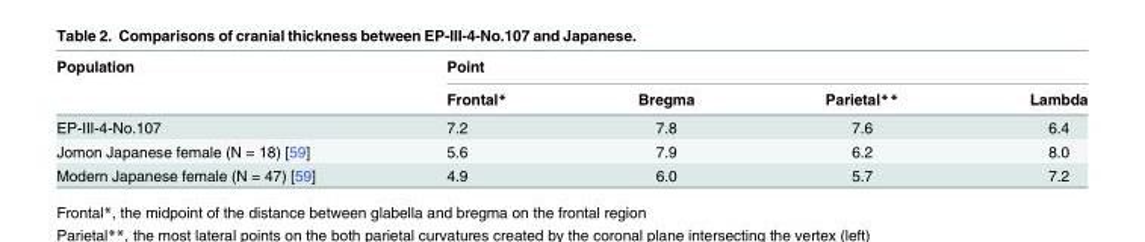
<table><thead><tr><td rowspan="2">Population</td><td colspan="4">Point</td></tr><tr><td>Frontal*</td><td>Bregma</td><td>Parietal**</td><td>Lambda</td></tr></thead><tbody><tr><td>EP-III-4-No.107</td><td>7.2</td><td>7.8</td><td>7.6</td><td>6.4</td></tr><tr><td>Jomon Japanese female (N = 18) [59]</td><td>5.6</td><td>7.9</td><td>6.2</td><td>8.0</td></tr><tr><td>Modern Japanese female (N = 47) [59]</td><td>4.9</td><td>6.0</td><td>5.7</td><td>7.2</td></tr></tbody></table>